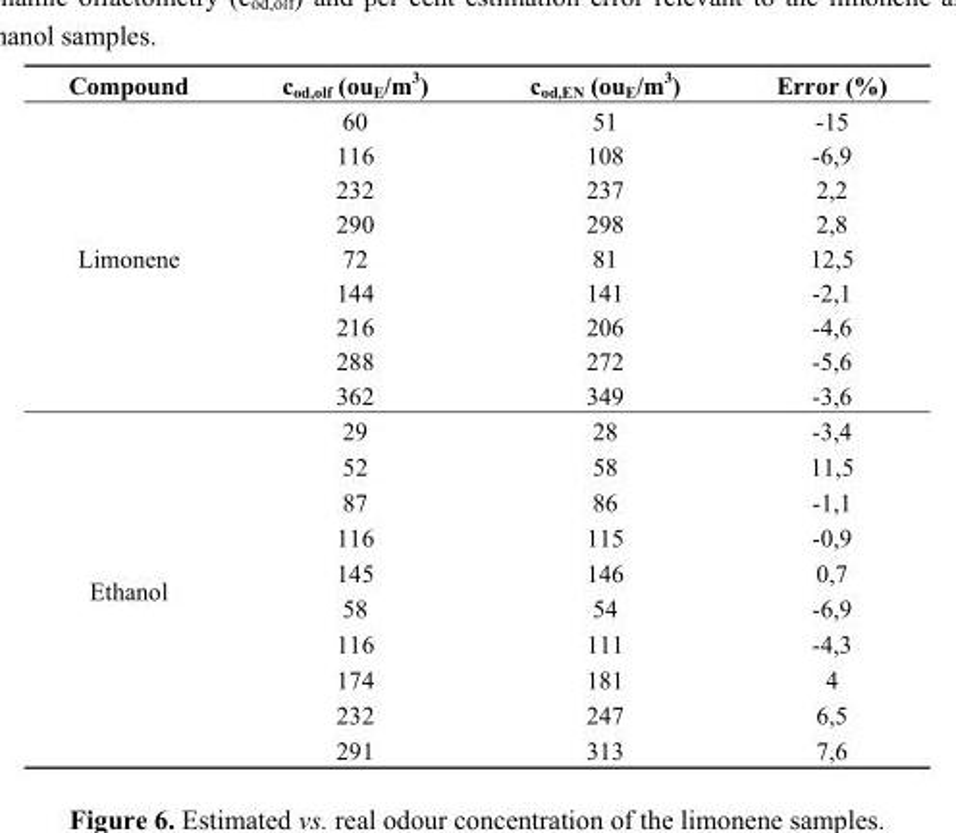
<table><thead><tr><td>Compound</td><td>c<sub>od,olf</sub> (ou<sub>E</sub>/m<sup>3</sup>)</td><td>c<sub>od,EN</sub> (ou<sub>E</sub>/m<sup>3</sup>)</td><td>Error (%)</td></tr></thead><tbody><tr><td rowspan="9">Limonene</td><td>60</td><td>51</td><td>-15</td></tr><tr><td>116</td><td>108</td><td>-6,9</td></tr><tr><td>232</td><td>237</td><td>2,2</td></tr><tr><td>290</td><td>298</td><td>2,8</td></tr><tr><td>72</td><td>81</td><td>12,5</td></tr><tr><td>144</td><td>141</td><td>-2,1</td></tr><tr><td>216</td><td>206</td><td>-4,6</td></tr><tr><td>288</td><td>272</td><td>-5,6</td></tr><tr><td>362</td><td>349</td><td>-3,6</td></tr><tr><td rowspan="10">Ethanol</td><td>29</td><td>28</td><td>-3,4</td></tr><tr><td>52</td><td>58</td><td>11,5</td></tr><tr><td>87</td><td>86</td><td>-1,1</td></tr><tr><td>116</td><td>115</td><td>-0,9</td></tr><tr><td>145</td><td>146</td><td>0,7</td></tr><tr><td>58</td><td>54</td><td>-6,9</td></tr><tr><td>116</td><td>111</td><td>-4,3</td></tr><tr><td>174</td><td>181</td><td>4</td></tr><tr><td>232</td><td>247</td><td>6,5</td></tr><tr><td>291</td><td>313</td><td>7,6</td></tr></tbody></table>